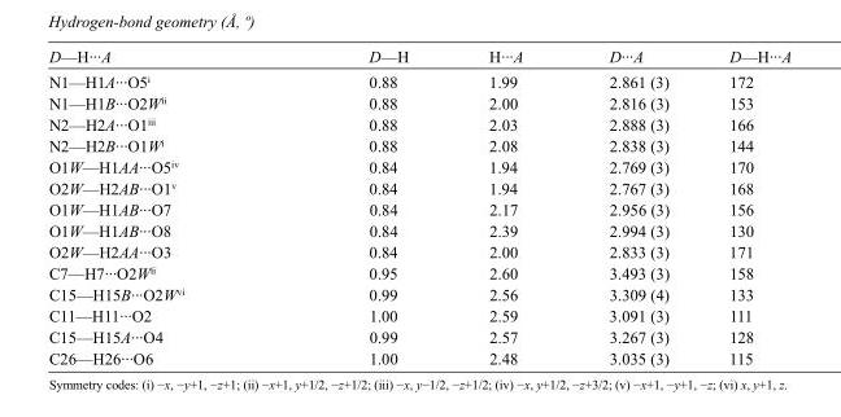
<table><tbody><tr><td>D—H···A</td><td>D—H</td><td>H···A</td><td>D···A</td><td>D—H···A</td></tr><tr><td>N1—H1A···O5<sup>i</sup></td><td>0.88</td><td>1.99</td><td>2.861 (3)</td><td>172</td></tr><tr><td>N1—H1B···O2W<sup>ii</sup></td><td>0.88</td><td>2.00</td><td>2.816 (3)</td><td>153</td></tr><tr><td>N2—H2A···O1<sup>iii</sup></td><td>0.88</td><td>2.03</td><td>2.888 (3)</td><td>166</td></tr><tr><td>N2—H2B···O1W<sup>i</sup></td><td>0.88</td><td>2.08</td><td>2.838 (3)</td><td>144</td></tr><tr><td>O1W—H1AA···O5<sup>iv</sup></td><td>0.84</td><td>1.94</td><td>2.769 (3)</td><td>170</td></tr><tr><td>O2W—H2AB···O1<sup>v</sup></td><td>0.84</td><td>1.94</td><td>2.767 (3)</td><td>168</td></tr><tr><td>O1W—H1AB···O7</td><td>0.84</td><td>2.17</td><td>2.956 (3)</td><td>156</td></tr><tr><td>O1W—H1AB···O8</td><td>0.84</td><td>2.39</td><td>2.994 (3)</td><td>130</td></tr><tr><td>O2W—H2AA···O3</td><td>0.84</td><td>2.00</td><td>2.833 (3)</td><td>171</td></tr><tr><td>C7—H7···O2W<sup>ii</sup></td><td>0.95</td><td>2.60</td><td>3.493 (3)</td><td>158</td></tr><tr><td>C15—H15B···O2W<sup>vi</sup></td><td>0.99</td><td>2.56</td><td>3.309 (4)</td><td>133</td></tr><tr><td>C11—H11···O2</td><td>1.00</td><td>2.59</td><td>3.091 (3)</td><td>111</td></tr><tr><td>C15—H15A···O4</td><td>0.99</td><td>2.57</td><td>3.267 (3)</td><td>128</td></tr><tr><td>C26—H26···O6</td><td>1.00</td><td>2.48</td><td>3.035 (3)</td><td>115</td></tr></tbody></table>